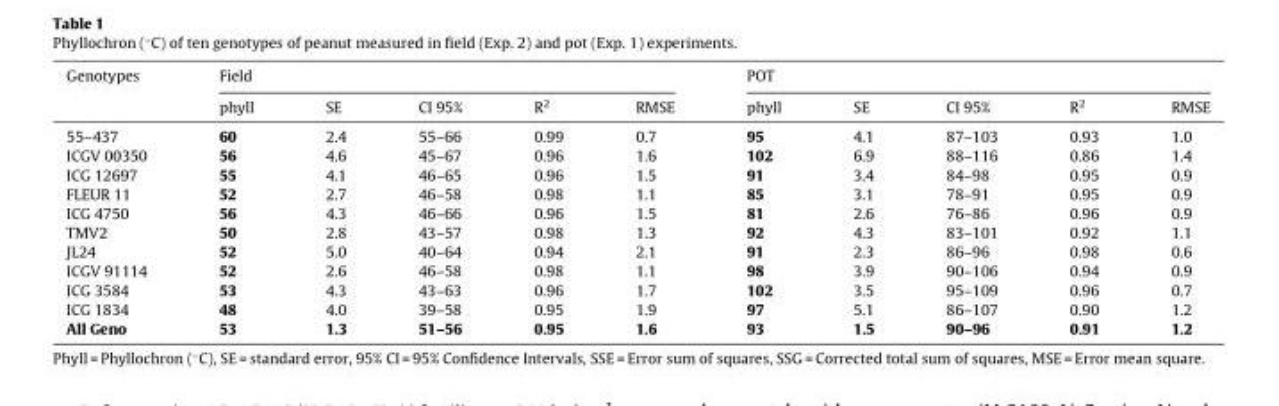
<table><thead><tr><td rowspan="2">Genotypes</td><td colspan="5">Field</td><td colspan="5">POT</td></tr><tr><td>phyll</td><td>SE</td><td>CI 95%</td><td>R<sup>2</sup></td><td>RMSE</td><td>phyll</td><td>SE</td><td>CI 95%</td><td>R<sup>2</sup></td><td>RMSE</td></tr></thead><tbody><tr><td>55–437</td><td>60</td><td>2.4</td><td>55–66</td><td>0.99</td><td>0.7</td><td>95</td><td>4.1</td><td>87–103</td><td>0.93</td><td>1.0</td></tr><tr><td>ICGV 00350</td><td>56</td><td>4.6</td><td>45–67</td><td>0.96</td><td>1.6</td><td>102</td><td>6.9</td><td>88–116</td><td>0.86</td><td>1.4</td></tr><tr><td>ICG 12697</td><td>55</td><td>4.1</td><td>46–65</td><td>0.96</td><td>1.5</td><td>91</td><td>3.4</td><td>84–98</td><td>0.95</td><td>0.9</td></tr><tr><td>FLEUR 11</td><td>52</td><td>2.7</td><td>46–58</td><td>0.98</td><td>1.1</td><td>85</td><td>3.1</td><td>78–91</td><td>0.95</td><td>0.9</td></tr><tr><td>ICG 4750</td><td>56</td><td>4.3</td><td>46–66</td><td>0.96</td><td>1.5</td><td>81</td><td>2.6</td><td>76–86</td><td>0.96</td><td>0.9</td></tr><tr><td>TMV2</td><td>50</td><td>2.8</td><td>43–57</td><td>0.98</td><td>1.3</td><td>92</td><td>4.3</td><td>83–101</td><td>0.92</td><td>1.1</td></tr><tr><td>JL24</td><td>52</td><td>5.0</td><td>40–64</td><td>0.94</td><td>2.1</td><td>91</td><td>2.3</td><td>86–96</td><td>0.98</td><td>0.6</td></tr><tr><td>ICGV 91114</td><td>52</td><td>2.6</td><td>46–58</td><td>0.98</td><td>1.1</td><td>98</td><td>3.9</td><td>90–106</td><td>0.94</td><td>0.9</td></tr><tr><td>ICG 3584</td><td>53</td><td>4.3</td><td>43–63</td><td>0.96</td><td>1.7</td><td>102</td><td>3.5</td><td>95–109</td><td>0.96</td><td>0.7</td></tr><tr><td>ICG 1834</td><td>48</td><td>4.0</td><td>39–58</td><td>0.95</td><td>1.9</td><td>97</td><td>5.1</td><td>86–107</td><td>0.90</td><td>1.2</td></tr><tr><td>All Geno</td><td>53</td><td>1.3</td><td>51–56</td><td>0.95</td><td>1.6</td><td>93</td><td>1.5</td><td>90–96</td><td>0.91</td><td>1.2</td></tr></tbody></table>